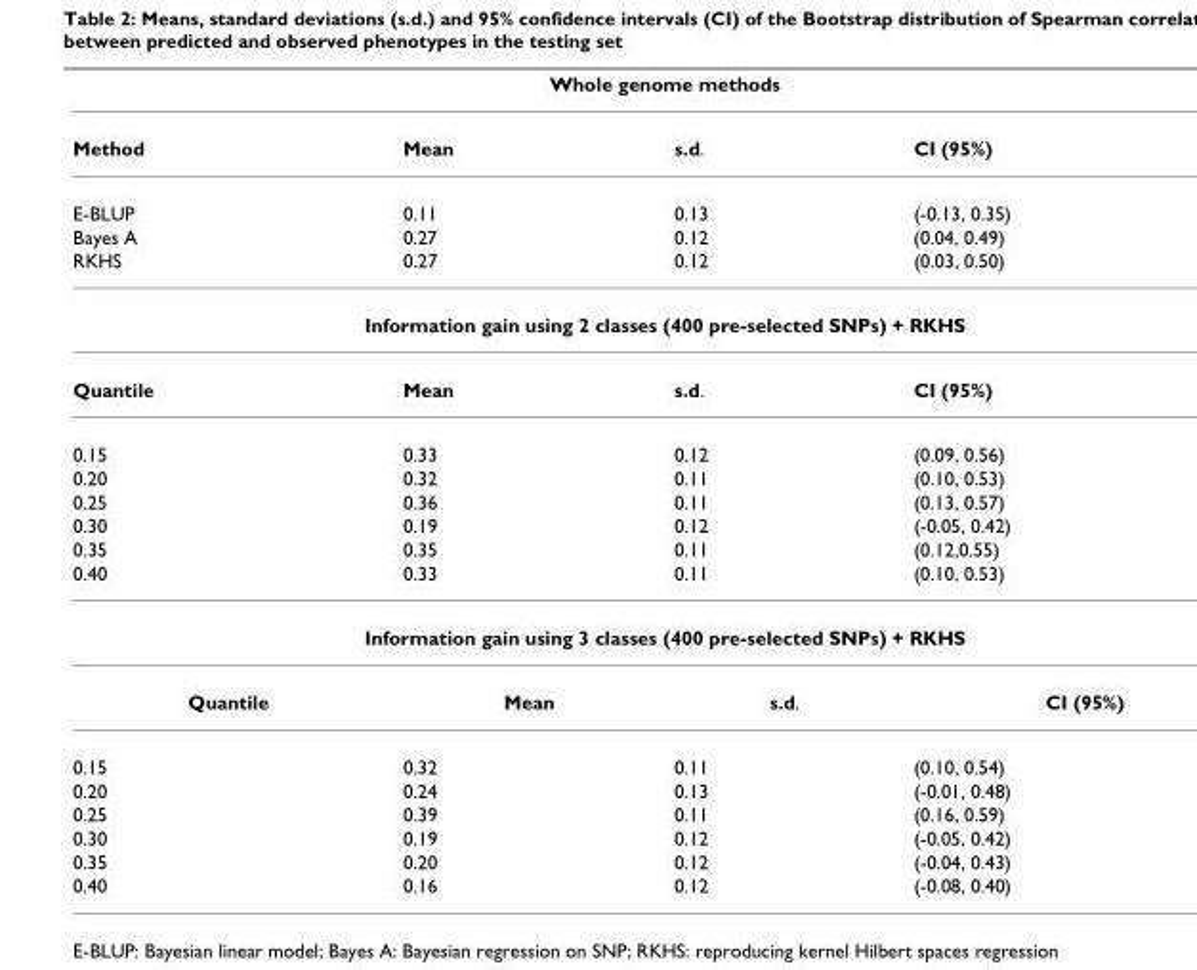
<table><thead><tr><td colspan="4">Whole genome methods</td></tr><tr><td>Method</td><td>Mean</td><td>s.d.</td><td>CI (95%)</td></tr></thead><tbody><tr><td>E-BLUP</td><td>0.11</td><td>0.13</td><td>(-0.13, 0.35)</td></tr><tr><td>Bayes A</td><td>0.27</td><td>0.12</td><td>(0.04, 0.49)</td></tr><tr><td>RKHS</td><td>0.27</td><td>0.12</td><td>(0.03, 0.50)</td></tr><tr><td colspan="4">Information gain using 2 classes (400 pre-selected SNPs) + RKHS</td></tr><tr><td>Quantile</td><td>Mean</td><td>s.d.</td><td>CI (95%)</td></tr><tr><td>0.15</td><td>0.33</td><td>0.12</td><td>(0.09, 0.56)</td></tr><tr><td>0.20</td><td>0.32</td><td>0.11</td><td>(0.10, 0.53)</td></tr><tr><td>0.25</td><td>0.36</td><td>0.11</td><td>(0.13, 0.57)</td></tr><tr><td>0.30</td><td>0.19</td><td>0.12</td><td>(-0.05, 0.42)</td></tr><tr><td>0.35</td><td>0.35</td><td>0.11</td><td>(0.12,0.55)</td></tr><tr><td>0.40</td><td>0.33</td><td>0.11</td><td>(0.10, 0.53)</td></tr><tr><td colspan="4">Information gain using 3 classes (400 pre-selected SNPs) + RKHS</td></tr><tr><td>Quantile</td><td>Mean</td><td>s.d.</td><td>CI (95%)</td></tr><tr><td>0.15</td><td>0.32</td><td>0.11</td><td>(0.10, 0.54)</td></tr><tr><td>0.20</td><td>0.24</td><td>0.13</td><td>(-0.01, 0.48)</td></tr><tr><td>0.25</td><td>0.39</td><td>0.11</td><td>(0.16, 0.59)</td></tr><tr><td>0.30</td><td>0.19</td><td>0.12</td><td>(-0.05, 0.42)</td></tr><tr><td>0.35</td><td>0.20</td><td>0.12</td><td>(-0.04, 0.43)</td></tr><tr><td>0.40</td><td>0.16</td><td>0.12</td><td>(-0.08, 0.40)</td></tr></tbody></table>